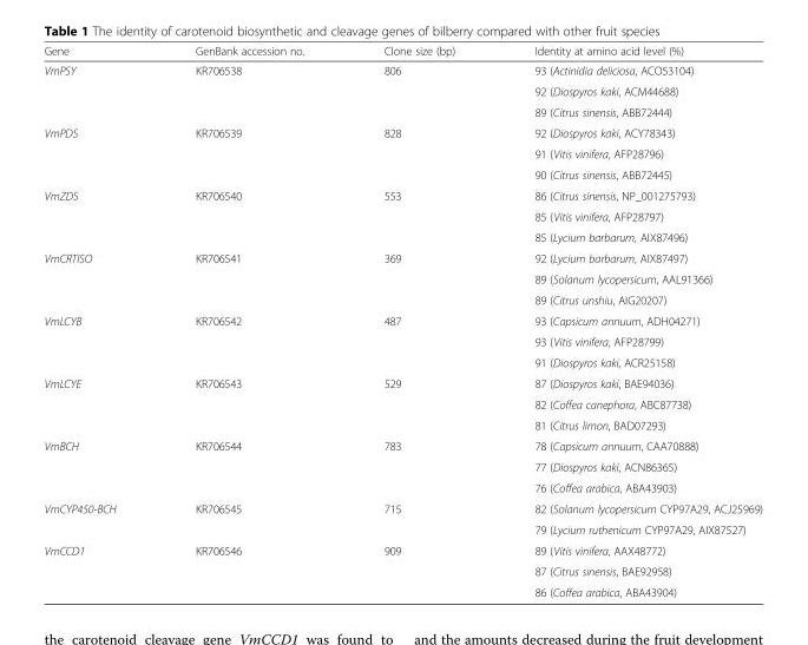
<table><thead><tr><td>Gene</td><td>GenBank accession no.</td><td>Clone size (bp)</td><td>Identity at amino acid level (%)</td></tr></thead><tbody><tr><td rowspan="3">VmPSY</td><td rowspan="3">KR706538</td><td rowspan="3">806</td><td>93 (Actinidia deliciosa, ACO53104)</td></tr><tr><td>92 (Diospyros kaki, ACM44688)</td></tr><tr><td>89 (Citrus sinensis, ABB72444)</td></tr><tr><td rowspan="3">VmPDS</td><td rowspan="3">KR706539</td><td rowspan="3">828</td><td>92 (Diospyros kaki, ACY78343)</td></tr><tr><td>91 (Vitis vinifera, AFP28796)</td></tr><tr><td>90 (Citrus sinensis, ABB72445)</td></tr><tr><td rowspan="3">VmZDS</td><td rowspan="3">KR706540</td><td rowspan="3">553</td><td>86 (Citrus sinensis, NP_001275793)</td></tr><tr><td>85 (Vitis vinifera, AFP28797)</td></tr><tr><td>85 (Lycium barbarum, AIX87496)</td></tr><tr><td rowspan="3">VmCRTISO</td><td rowspan="3">KR706541</td><td rowspan="3">369</td><td>92 (Lycium barbarum, AIX87497)</td></tr><tr><td>89 (Solanum lycopersicum, AAL91366)</td></tr><tr><td>89 (Citrus unshiu, AIG20207)</td></tr><tr><td rowspan="3">VmLCYB</td><td rowspan="3">KR706542</td><td rowspan="3">487</td><td>93 (Capsicum annuum, ADH04271)</td></tr><tr><td>93 (Vitis vinifera, AFP28799)</td></tr><tr><td>91 (Diospyros kaki, ACR25158)</td></tr><tr><td rowspan="3">VmLCYE</td><td rowspan="3">KR706543</td><td rowspan="3">529</td><td>87 (Diospyros kaki, BAE94036)</td></tr><tr><td>82 (Coffea canephora, ABC87738)</td></tr><tr><td>81 (Citrus limon, BAD07293)</td></tr><tr><td rowspan="3">VmBCH</td><td rowspan="3">KR706544</td><td rowspan="3">783</td><td>78 (Capsicum annuum, CAA70888)</td></tr><tr><td>77 (Diospyros kaki, ACN86365)</td></tr><tr><td>76 (Coffea arabica, ABA43903)</td></tr><tr><td rowspan="2">VmCYP450-BCH</td><td rowspan="2">KR706545</td><td rowspan="2">715</td><td>82 (Solanum lycopersicum CYP97A29, ACJ25969)</td></tr><tr><td>79 (Lycium ruthenicum CYP97A29, AIX87527)</td></tr><tr><td rowspan="3">VmCCD1</td><td rowspan="3">KR706546</td><td rowspan="3">909</td><td>89 (Vitis vinifera, AAX48772)</td></tr><tr><td>87 (Citrus sinensis, BAE92958)</td></tr><tr><td>86 (Coffea arabica, ABA43904)</td></tr></tbody></table>